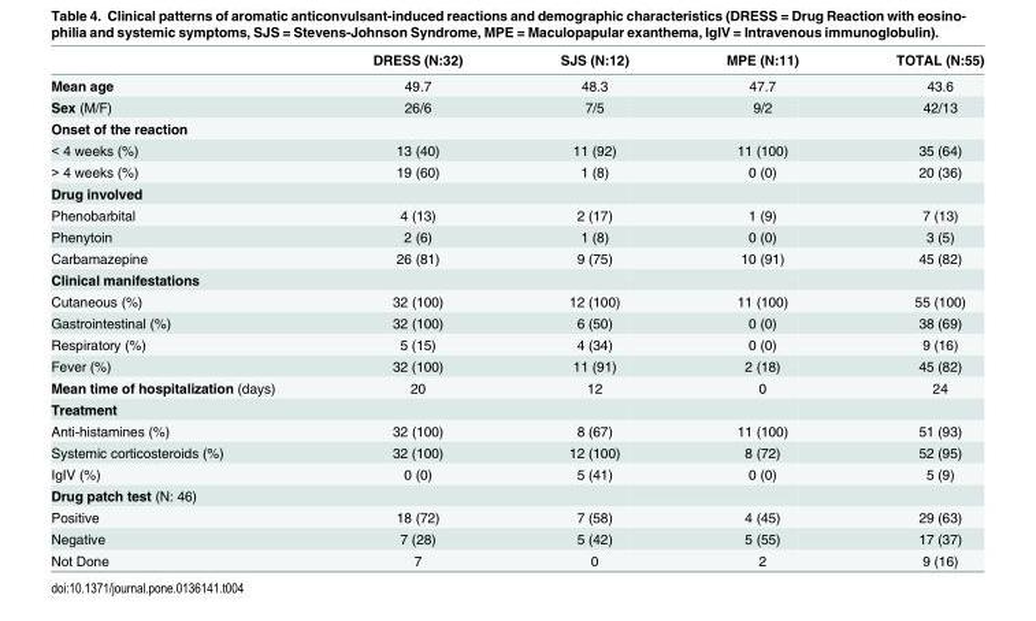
<table><thead><tr><td></td><td>DRESS (N:32)</td><td>SJS (N:12)</td><td>MPE (N:11)</td><td>TOTAL (N:55)</td></tr></thead><tbody><tr><td>Mean age</td><td>49.7</td><td>48.3</td><td>47.7</td><td>43.6</td></tr><tr><td>Sex (M/F)</td><td>26/6</td><td>7/5</td><td>9/2</td><td>42/13</td></tr><tr><td colspan="5">Onset of the reaction</td></tr><tr><td>&lt; 4 weeks (%)</td><td>13 (40)</td><td>11 (92)</td><td>11 (100)</td><td>35 (64)</td></tr><tr><td>&gt; 4 weeks (%)</td><td>19 (60)</td><td>1 (8)</td><td>0 (0)</td><td>20 (36)</td></tr><tr><td colspan="5">Drug involved</td></tr><tr><td>Phenobarbital</td><td>4 (13)</td><td>2 (17)</td><td>1 (9)</td><td>7 (13)</td></tr><tr><td>Phenytoin</td><td>2 (6)</td><td>1 (8)</td><td>0 (0)</td><td>3 (5)</td></tr><tr><td>Carbamazepine</td><td>26 (81)</td><td>9 (75)</td><td>10 (91)</td><td>45 (82)</td></tr><tr><td colspan="5">Clinical manifestations</td></tr><tr><td>Cutaneous (%)</td><td>32 (100)</td><td>12 (100)</td><td>11 (100)</td><td>55 (100)</td></tr><tr><td>Gastrointestinal (%)</td><td>32 (100)</td><td>6 (50)</td><td>0 (0)</td><td>38 (69)</td></tr><tr><td>Respiratory (%)</td><td>5 (15)</td><td>4 (34)</td><td>0 (0)</td><td>9 (16)</td></tr><tr><td>Fever (%)</td><td>32 (100)</td><td>11 (91)</td><td>2 (18)</td><td>45 (82)</td></tr><tr><td>Mean time of hospitalization (days)</td><td>20</td><td>12</td><td>0</td><td>24</td></tr><tr><td colspan="5">Treatment</td></tr><tr><td>Anti-histamines (%)</td><td>32 (100)</td><td>8 (67)</td><td>11 (100)</td><td>51 (93)</td></tr><tr><td>Systemic corticosteroids (%)</td><td>32 (100)</td><td>12 (100)</td><td>8 (72)</td><td>52 (95)</td></tr><tr><td>IgIV (%)</td><td>0 (0)</td><td>5 (41)</td><td>0 (0)</td><td>5 (9)</td></tr><tr><td colspan="5">Drug patch test (N: 46)</td></tr><tr><td>Positive</td><td>18 (72)</td><td>7 (58)</td><td>4 (45)</td><td>29 (63)</td></tr><tr><td>Negative</td><td>7 (28)</td><td>5 (42)</td><td>5 (55)</td><td>17 (37)</td></tr><tr><td>Not Done</td><td>7</td><td>0</td><td>2</td><td>9 (16)</td></tr></tbody></table>